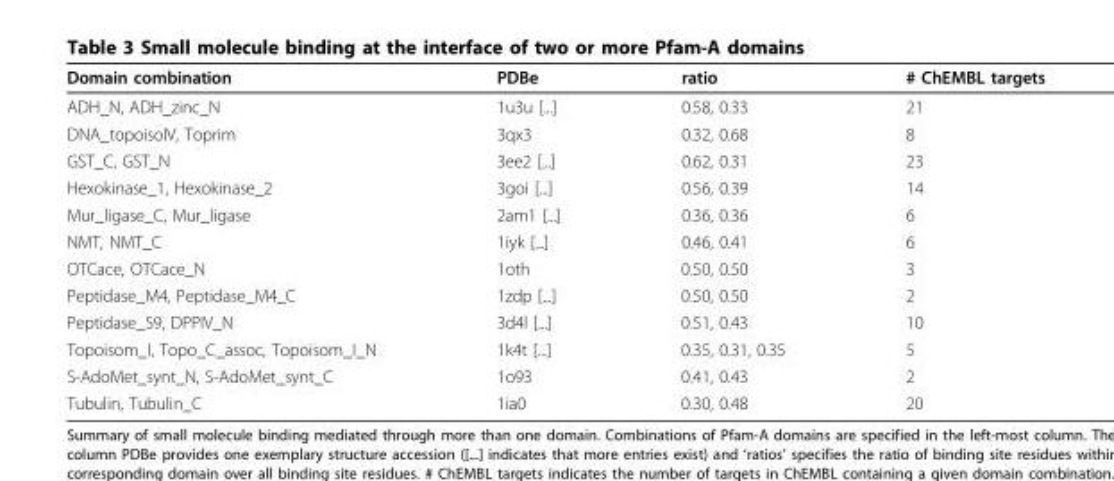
<table><thead><tr><td>Domain combination</td><td>PDBe</td><td>ratio</td><td># ChEMBL targets</td></tr></thead><tbody><tr><td>ADH_N, ADH_zinc_N</td><td>1u3u [...]</td><td>0.58, 0.33</td><td>21</td></tr><tr><td>DNA_topoisoIV, Toprim</td><td>3qx3</td><td>0.32, 0.68</td><td>8</td></tr><tr><td>GST_C, GST_N</td><td>3ee2 [...]</td><td>0.62, 0.31</td><td>23</td></tr><tr><td>Hexokinase_1, Hexokinase_2</td><td>3goi [...]</td><td>0.56, 0.39</td><td>14</td></tr><tr><td>Mur_ligase_C, Mur_ligase</td><td>2am1 [...]</td><td>0.36, 0.36</td><td>6</td></tr><tr><td>NMT, NMT_C</td><td>1iyk [...]</td><td>0.46, 0.41</td><td>6</td></tr><tr><td>OTCace, OTCace_N</td><td>1oth</td><td>0.50, 0.50</td><td>3</td></tr><tr><td>Peptidase_M4, Peptidase_M4_C</td><td>1zdp [...]</td><td>0.50, 0.50</td><td>2</td></tr><tr><td>Peptidase_S9, DPPIV_N</td><td>3d4l [...]</td><td>0.51, 0.43</td><td>10</td></tr><tr><td>Topoisom_I, Topo_C_assoc, Topoisom_I_N</td><td>1k4t [...]</td><td>0.35, 0.31, 0.35</td><td>5</td></tr><tr><td>S-AdoMet_synt_N, S-AdoMet_synt_C</td><td>1o93</td><td>0.41, 0.43</td><td>2</td></tr><tr><td>Tubulin, Tubulin_C</td><td>1ia0</td><td>0.30, 0.48</td><td>20</td></tr></tbody></table>